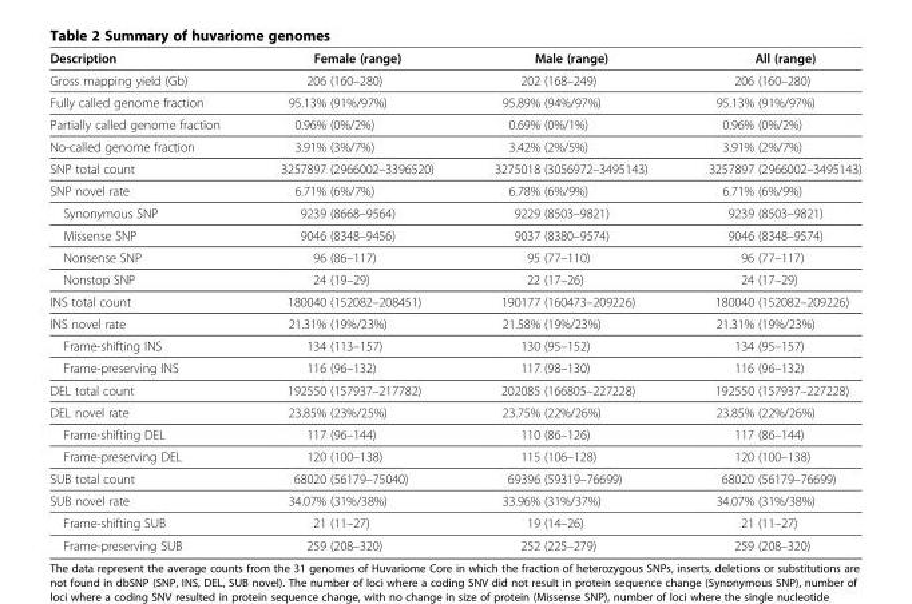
<table><thead><tr><td>Description</td><td>Female (range)</td><td>Male (range)</td><td>All (range)</td></tr></thead><tbody><tr><td>Gross mapping yield (Gb)</td><td>206 (160–280)</td><td>202 (168–249)</td><td>206 (160–280)</td></tr><tr><td>Fully called genome fraction</td><td>95.13% (91%/97%)</td><td>95.89% (94%/97%)</td><td>95.13% (91%/97%)</td></tr><tr><td>Partially called genome fraction</td><td>0.96% (0%/2%)</td><td>0.69% (0%/1%)</td><td>0.96% (0%/2%)</td></tr><tr><td>No-called genome fraction</td><td>3.91% (3%/7%)</td><td>3.42% (2%/5%)</td><td>3.91% (2%/7%)</td></tr><tr><td>SNP total count</td><td>3257897 (2966002–3396520)</td><td>3275018 (3056972–3495143)</td><td>3257897 (2966002–3495143)</td></tr><tr><td>SNP novel rate</td><td>6.71% (6%/7%)</td><td>6.78% (6%/9%)</td><td>6.71% (6%/9%)</td></tr><tr><td>Synonymous SNP</td><td>9239 (8668–9564)</td><td>9229 (8503–9821)</td><td>9239 (8503–9821)</td></tr><tr><td>Missense SNP</td><td>9046 (8348–9456)</td><td>9037 (8380–9574)</td><td>9046 (8348–9574)</td></tr><tr><td>Nonsense SNP</td><td>96 (86–117)</td><td>95 (77–110)</td><td>96 (77–117)</td></tr><tr><td>Nonstop SNP</td><td>24 (19–29)</td><td>22 (17–26)</td><td>24 (17–29)</td></tr><tr><td>INS total count</td><td>180040 (152082–208451)</td><td>190177 (160473–209226)</td><td>180040 (152082–209226)</td></tr><tr><td>INS novel rate</td><td>21.31% (19%/23%)</td><td>21.58% (19%/23%)</td><td>21.31% (19%/23%)</td></tr><tr><td>Frame-shifting INS</td><td>134 (113–157)</td><td>130 (95–152)</td><td>134 (95–157)</td></tr><tr><td>Frame-preserving INS</td><td>116 (96–132)</td><td>117 (98–130)</td><td>116 (96–132)</td></tr><tr><td>DEL total count</td><td>192550 (157937–217782)</td><td>202085 (166805–227228)</td><td>192550 (157937–227228)</td></tr><tr><td>DEL novel rate</td><td>23.85% (23%/25%)</td><td>23.75% (22%/26%)</td><td>23.85% (22%/26%)</td></tr><tr><td>Frame-shifting DEL</td><td>117 (96–144)</td><td>110 (86–126)</td><td>117 (86–144)</td></tr><tr><td>Frame-preserving DEL</td><td>120 (100–138)</td><td>115 (106–128)</td><td>120 (100–138)</td></tr><tr><td>SUB total count</td><td>68020 (56179–75040)</td><td>69396 (59319–76699)</td><td>68020 (56179–76699)</td></tr><tr><td>SUB novel rate</td><td>34.07% (31%/38%)</td><td>33.96% (31%/37%)</td><td>34.07% (31%/38%)</td></tr><tr><td>Frame-shifting SUB</td><td>21 (11–27)</td><td>19 (14–26)</td><td>21 (11–27)</td></tr><tr><td>Frame-preserving SUB</td><td>259 (208–320)</td><td>252 (225–279)</td><td>259 (208–320)</td></tr></tbody></table>